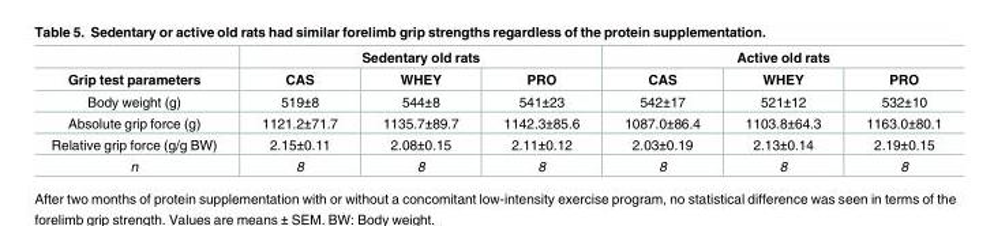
<table><thead><tr><td rowspan="2">Grip test parameters</td><td colspan="3">Sedentary old rats</td><td colspan="3">Active old rats</td></tr><tr><td>CAS</td><td>WHEY</td><td>PRO</td><td>CAS</td><td>WHEY</td><td>PRO</td></tr></thead><tbody><tr><td>Body weight (g)</td><td>519±8</td><td>544±8</td><td>541±23</td><td>542±17</td><td>521±12</td><td>532±10</td></tr><tr><td>Absolute grip force (g)</td><td>1121.2±71.7</td><td>1135.7±89.7</td><td>1142.3±85.6</td><td>1087.0±86.4</td><td>1103.8±64.3</td><td>1163.0±80.1</td></tr><tr><td>Relative grip force (g/g BW)</td><td>2.15±0.11</td><td>2.08±0.15</td><td>2.11±0.12</td><td>2.03±0.19</td><td>2.13±0.14</td><td>2.19±0.15</td></tr><tr><td>n</td><td>8</td><td>8</td><td>8</td><td>8</td><td>8</td><td>8</td></tr></tbody></table>